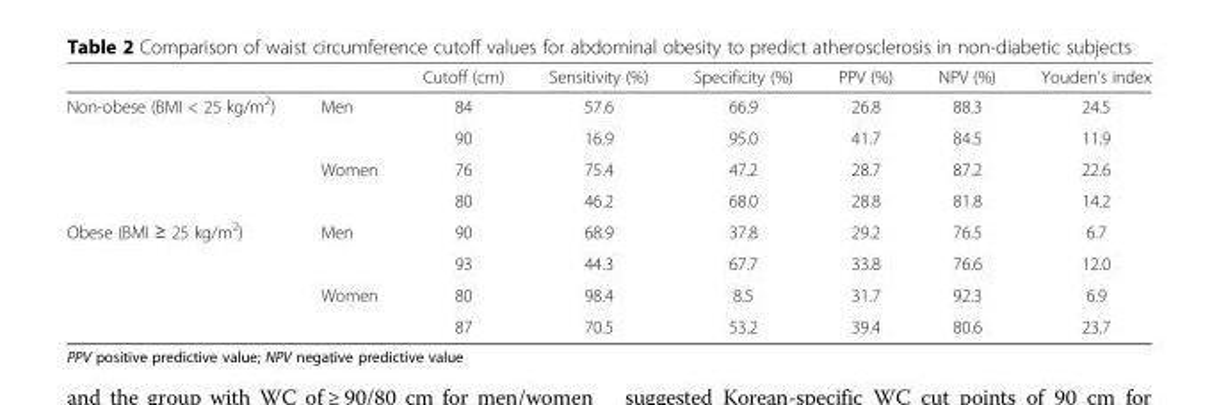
<table><thead><tr><td></td><td></td><td>Cutoff (cm)</td><td>Sensitivity (%)</td><td>Specificity (%)</td><td>PPV (%)</td><td>NPV (%)</td><td>Youden’s index</td></tr></thead><tbody><tr><td rowspan="4">Non-obese (BMI &lt; 25 kg/m<sup>2</sup>)</td><td>Men</td><td>84</td><td>57.6</td><td>66.9</td><td>26.8</td><td>88.3</td><td>24.5</td></tr><tr><td></td><td>90</td><td>16.9</td><td>95.0</td><td>41.7</td><td>84.5</td><td>11.9</td></tr><tr><td>Women</td><td>76</td><td>75.4</td><td>47.2</td><td>28.7</td><td>87.2</td><td>22.6</td></tr><tr><td></td><td>80</td><td>46.2</td><td>68.0</td><td>28.8</td><td>81.8</td><td>14.2</td></tr><tr><td rowspan="4">Obese (BMI ≥ 25 kg/m<sup>2</sup>)</td><td>Men</td><td>90</td><td>68.9</td><td>37.8</td><td>29.2</td><td>76.5</td><td>6.7</td></tr><tr><td></td><td>93</td><td>44.3</td><td>67.7</td><td>33.8</td><td>76.6</td><td>12.0</td></tr><tr><td>Women</td><td>80</td><td>98.4</td><td>8.5</td><td>31.7</td><td>92.3</td><td>6.9</td></tr><tr><td></td><td>87</td><td>70.5</td><td>53.2</td><td>39.4</td><td>80.6</td><td>23.7</td></tr></tbody></table>